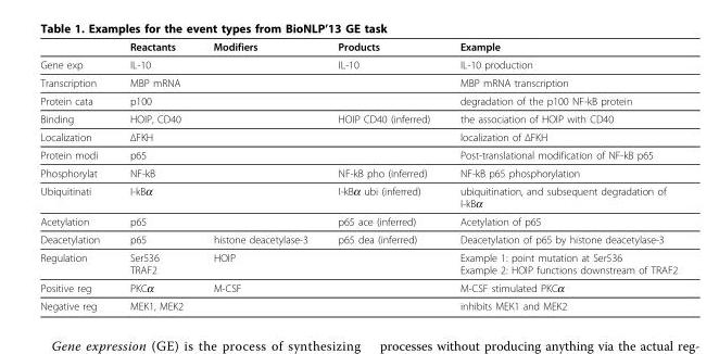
<table><thead><tr><td></td><td>Reactants</td><td>Modifiers</td><td>Products</td><td>Example</td></tr></thead><tbody><tr><td>Gene exp</td><td>IL-10</td><td></td><td>IL-10</td><td>IL-10 production</td></tr><tr><td>Transcription</td><td>MBP mRNA</td><td></td><td></td><td>MBP mRNA transcription</td></tr><tr><td>Protein cata</td><td>p100</td><td></td><td></td><td>degradation of the p100 NF-kB protein</td></tr><tr><td>Binding</td><td>HOIP, CD40</td><td></td><td>HOIP CD40 (inferred)</td><td>the association of HOIP with CD40</td></tr><tr><td>Localization</td><td>ΔFKH</td><td></td><td></td><td>localization of ΔFKH</td></tr><tr><td>Protein modi</td><td>p65</td><td></td><td></td><td>Post-translational modification of NF-kB p65</td></tr><tr><td>Phosphorylat</td><td>NF-kB</td><td></td><td>NF-kB pho (inferred)</td><td>NF-kB p65 phosphorylation</td></tr><tr><td>Ubiquitinati</td><td>I-kBα</td><td></td><td>I-kBα ubi (inferred)</td><td>ubiquitination, and subsequent degradation of I-kBα</td></tr><tr><td>Acetylation</td><td>p65</td><td></td><td>p65 ace (inferred)</td><td>Acetylation of p65</td></tr><tr><td>Deacetylation</td><td>p65</td><td>histone deacetylase-3</td><td>p65 dea (inferred)</td><td>Deacetylation of p65 by histone deacetylase-3</td></tr><tr><td>Regulation</td><td>Ser536 TRAF2</td><td>HOIP</td><td></td><td>Example 1: point mutation at Ser536 Example 2: HOIP functions downstream of TRAF2</td></tr><tr><td>Positive reg</td><td>PKCα</td><td>M-CSF</td><td></td><td>M-CSF stimulated PKCα</td></tr><tr><td>Negative reg</td><td>MEK1, MEK2</td><td></td><td></td><td>inhibits MEK1 and MEK2</td></tr></tbody></table>